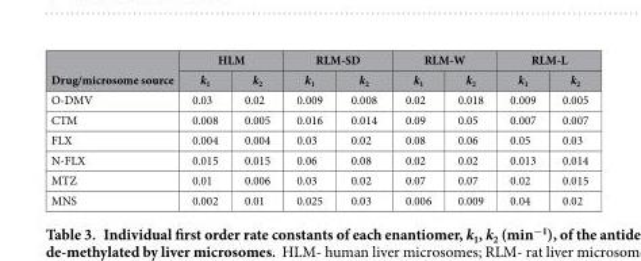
<table><thead><tr><td rowspan="2">Drug/microsome source</td><td colspan="2">HLM</td><td colspan="2">RLM-SD</td><td colspan="2">RLM-W</td><td colspan="2">RLM-L</td></tr><tr><td>k<sub>1</sub></td><td>k<sub>2</sub></td><td>k<sub>1</sub></td><td>k<sub>2</sub></td><td>k<sub>1</sub></td><td>k<sub>2</sub></td><td>k<sub>1</sub></td><td>k<sub>2</sub></td></tr></thead><tbody><tr><td>O-DMV</td><td>0.03</td><td>0.02</td><td>0.009</td><td>0.008</td><td>0.02</td><td>0.018</td><td>0.009</td><td>0.005</td></tr><tr><td>CTM</td><td>0.008</td><td>0.005</td><td>0.016</td><td>0.014</td><td>0.09</td><td>0.05</td><td>0.007</td><td>0.007</td></tr><tr><td>FLX</td><td>0.004</td><td>0.004</td><td>0.03</td><td>0.02</td><td>0.08</td><td>0.06</td><td>0.05</td><td>0.03</td></tr><tr><td>N-FLX</td><td>0.015</td><td>0.015</td><td>0.06</td><td>0.08</td><td>0.02</td><td>0.02</td><td>0.013</td><td>0.014</td></tr><tr><td>MTZ</td><td>0.01</td><td>0.006</td><td>0.03</td><td>0.02</td><td>0.07</td><td>0.07</td><td>0.02</td><td>0.015</td></tr><tr><td>MNS</td><td>0.002</td><td>0.01</td><td>0.025</td><td>0.03</td><td>0.006</td><td>0.009</td><td>0.04</td><td>0.02</td></tr></tbody></table>